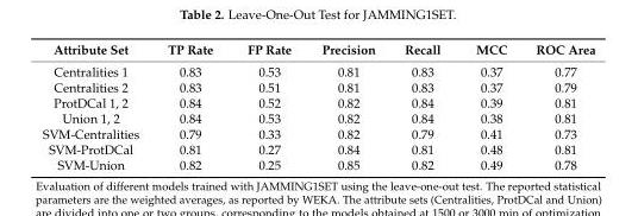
<table><thead><tr><td>Attribute Set</td><td>TP Rate</td><td>FP Rate</td><td>Precision</td><td>Recall</td><td>MCC</td><td>ROC Area</td></tr></thead><tbody><tr><td>Centralities 1</td><td>0.83</td><td>0.53</td><td>0.81</td><td>0.83</td><td>0.37</td><td>0.77</td></tr><tr><td>Centralities 2</td><td>0.83</td><td>0.51</td><td>0.81</td><td>0.83</td><td>0.37</td><td>0.79</td></tr><tr><td>ProtDCal 1, 2</td><td>0.84</td><td>0.52</td><td>0.82</td><td>0.84</td><td>0.39</td><td>0.81</td></tr><tr><td>Union 1, 2</td><td>0.84</td><td>0.53</td><td>0.82</td><td>0.84</td><td>0.38</td><td>0.81</td></tr><tr><td>SVM-Centralities</td><td>0.79</td><td>0.33</td><td>0.82</td><td>0.79</td><td>0.41</td><td>0.73</td></tr><tr><td>SVM-ProtDCal</td><td>0.81</td><td>0.27</td><td>0.84</td><td>0.81</td><td>0.48</td><td>0.81</td></tr><tr><td>SVM-Union</td><td>0.82</td><td>0.25</td><td>0.85</td><td>0.82</td><td>0.49</td><td>0.78</td></tr></tbody></table>